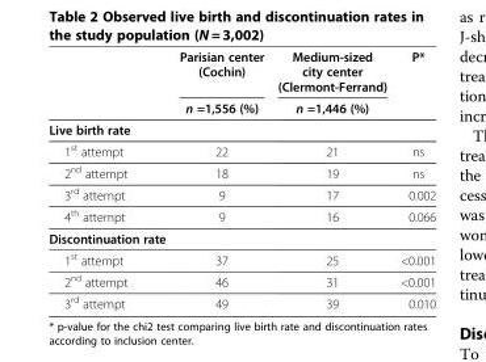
<table><thead><tr><td rowspan="2"></td><td rowspan="2">Parisian center (Cochin) n =1,556 (%)</td><td rowspan="2">Medium-sized city center (Clermont-Ferrand) n =1,446 (%)</td><td rowspan="2">P*</td></tr><tr></tr></thead><tbody><tr><td colspan="4">Live birth rate</td></tr><tr><td>1<sup>st</sup> attempt</td><td>22</td><td>21</td><td>ns</td></tr><tr><td>2<sup>nd</sup> attempt</td><td>18</td><td>19</td><td>ns</td></tr><tr><td>3<sup>rd</sup> attempt</td><td>9</td><td>17</td><td>0.002</td></tr><tr><td>4<sup>th</sup> attempt</td><td>9</td><td>16</td><td>0.066</td></tr><tr><td colspan="4">Discontinuation rate</td></tr><tr><td>1<sup>st</sup> attempt</td><td>37</td><td>25</td><td>&lt;0.001</td></tr><tr><td>2<sup>nd</sup> attempt</td><td>46</td><td>31</td><td>&lt;0.001</td></tr><tr><td>3<sup>rd</sup> attempt</td><td>49</td><td>39</td><td>0.010</td></tr></tbody></table>